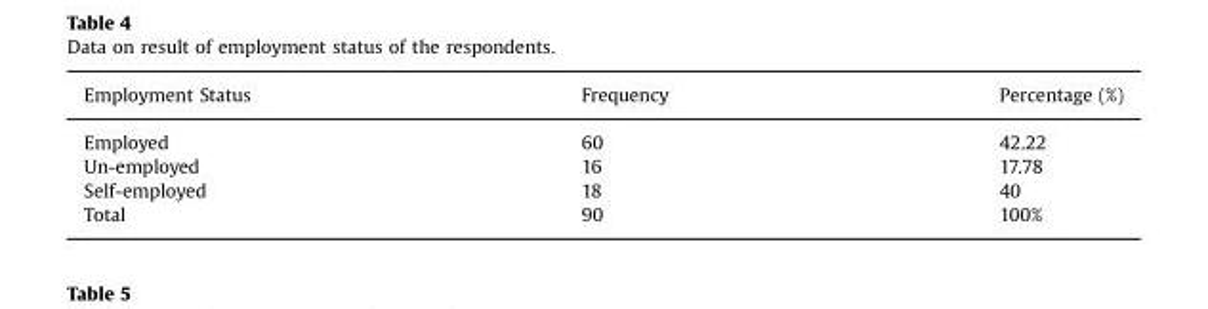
<table><thead><tr><td>Employment Status</td><td>Frequency</td><td>Percentage (%)</td></tr></thead><tbody><tr><td>Employed</td><td>60</td><td>42.22</td></tr><tr><td>Un-employed</td><td>16</td><td>17.78</td></tr><tr><td>Self-employed</td><td>18</td><td>40</td></tr><tr><td>Total</td><td>90</td><td>100%</td></tr></tbody></table>